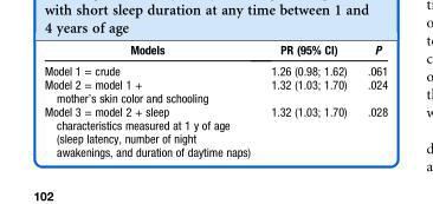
<table><thead><tr><td>Models</td><td>PR (95% CI)</td><td>P</td></tr></thead><tbody><tr><td>Model 1 = crude</td><td>1.26 (0.98; 1.62)</td><td>.061</td></tr><tr><td>Model 2 = model 1 + mother’s skin color and schooling</td><td>1.32 (1.03; 1.70)</td><td>.024</td></tr><tr><td>Model 3 = model 2 + sleep characteristics measured at 1 y of age (sleep latency, number of night awakenings, and duration of daytime naps)</td><td>1.32 (1.03; 1.70)</td><td>.028</td></tr></tbody></table>